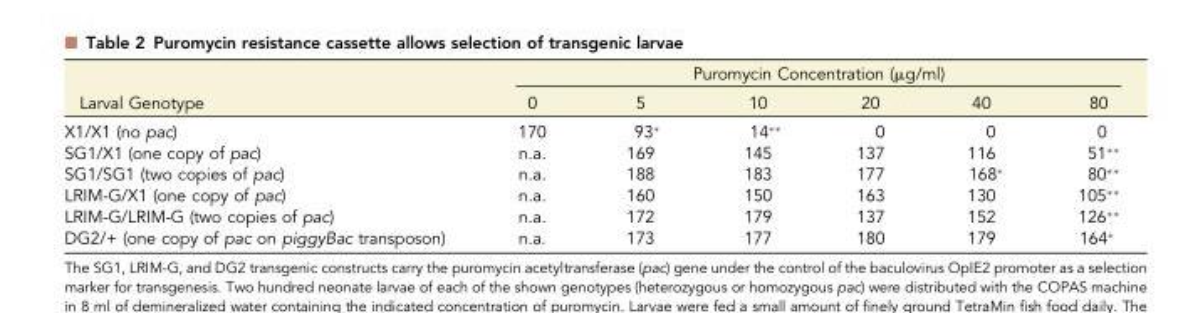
<table><thead><tr><td rowspan="2">Larval Genotype</td><td colspan="6">Puromycin Concentration (µg/ml)</td></tr><tr><td>0</td><td>5</td><td>10</td><td>20</td><td>40</td><td>80</td></tr></thead><tbody><tr><td>X1/X1 (no pac)</td><td>170</td><td>93*</td><td>14**</td><td>0</td><td>0</td><td>0</td></tr><tr><td>SG1/X1 (one copy of pac)</td><td>n.a.</td><td>169</td><td>145</td><td>137</td><td>116</td><td>51**</td></tr><tr><td>SG1/SG1 (two copies of pac)</td><td>n.a.</td><td>188</td><td>183</td><td>177</td><td>168*</td><td>80**</td></tr><tr><td>LRIM-G/X1 (one copy of pac)</td><td>n.a.</td><td>160</td><td>150</td><td>163</td><td>130</td><td>105**</td></tr><tr><td>LRIM-G/LRIM-G (two copies of pac)</td><td>n.a.</td><td>172</td><td>179</td><td>137</td><td>152</td><td>126**</td></tr><tr><td>DG2/+ (one copy of pac on piggyBac transposon)</td><td>n.a.</td><td>173</td><td>177</td><td>180</td><td>179</td><td>164*</td></tr></tbody></table>